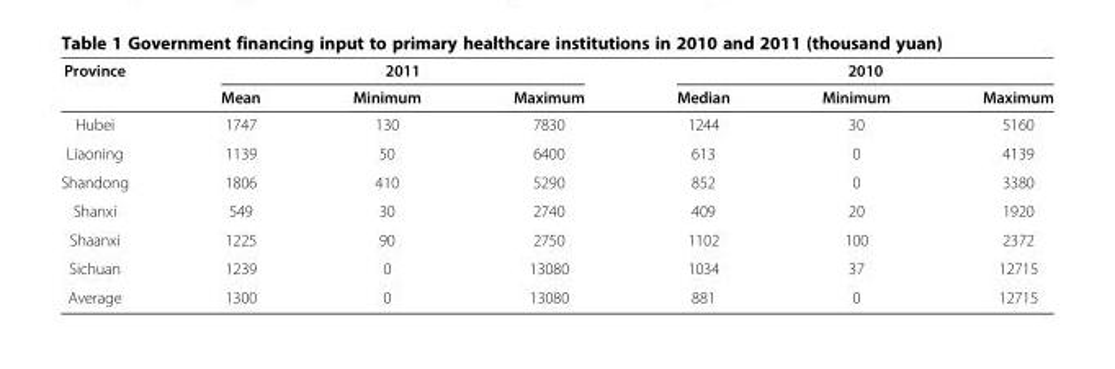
<table><thead><tr><td rowspan="2">Province</td><td colspan="3">2011</td><td colspan="3">2010</td></tr><tr><td>Mean</td><td>Minimum</td><td>Maximum</td><td>Median</td><td>Minimum</td><td>Maximum</td></tr></thead><tbody><tr><td>Hubei</td><td>1747</td><td>130</td><td>7830</td><td>1244</td><td>30</td><td>5160</td></tr><tr><td>Liaoning</td><td>1139</td><td>50</td><td>6400</td><td>613</td><td>0</td><td>4139</td></tr><tr><td>Shandong</td><td>1806</td><td>410</td><td>5290</td><td>852</td><td>0</td><td>3380</td></tr><tr><td>Shanxi</td><td>549</td><td>30</td><td>2740</td><td>409</td><td>20</td><td>1920</td></tr><tr><td>Shaanxi</td><td>1225</td><td>90</td><td>2750</td><td>1102</td><td>100</td><td>2372</td></tr><tr><td>Sichuan</td><td>1239</td><td>0</td><td>13080</td><td>1034</td><td>37</td><td>12715</td></tr><tr><td>Average</td><td>1300</td><td>0</td><td>13080</td><td>881</td><td>0</td><td>12715</td></tr></tbody></table>